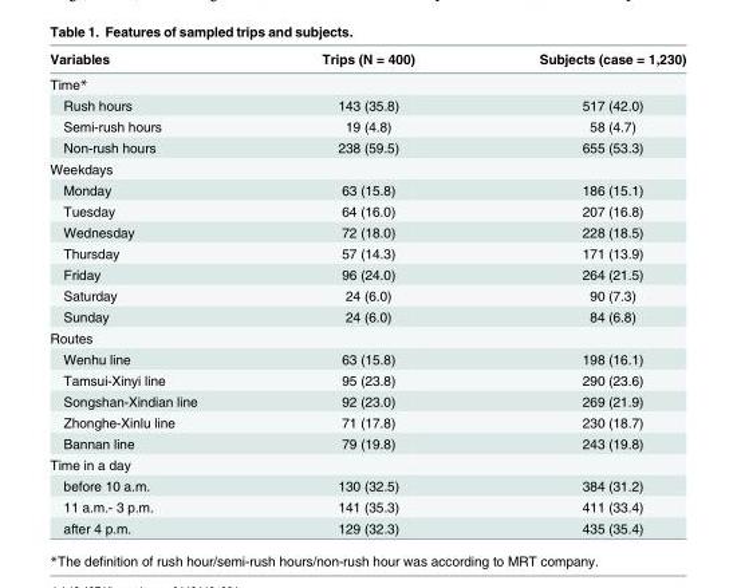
<table><thead><tr><td>Variables</td><td>Trips (N = 400)</td><td>Subjects (case = 1,230)</td></tr></thead><tbody><tr><td colspan="3">Time*</td></tr><tr><td>Rush hours</td><td>143 (35.8)</td><td>517 (42.0)</td></tr><tr><td>Semi-rush hours</td><td>19 (4.8)</td><td>58 (4.7)</td></tr><tr><td>Non-rush hours</td><td>238 (59.5)</td><td>655 (53.3)</td></tr><tr><td colspan="3">Weekdays</td></tr><tr><td>Monday</td><td>63 (15.8)</td><td>186 (15.1)</td></tr><tr><td>Tuesday</td><td>64 (16.0)</td><td>207 (16.8)</td></tr><tr><td>Wednesday</td><td>72 (18.0)</td><td>228 (18.5)</td></tr><tr><td>Thursday</td><td>57 (14.3)</td><td>171 (13.9)</td></tr><tr><td>Friday</td><td>96 (24.0)</td><td>264 (21.5)</td></tr><tr><td>Saturday</td><td>24 (6.0)</td><td>90 (7.3)</td></tr><tr><td>Sunday</td><td>24 (6.0)</td><td>84 (6.8)</td></tr><tr><td colspan="3">Routes</td></tr><tr><td>Wenhu line</td><td>63 (15.8)</td><td>198 (16.1)</td></tr><tr><td>Tamsui-Xinyi line</td><td>95 (23.8)</td><td>290 (23.6)</td></tr><tr><td>Songshan-Xindian line</td><td>92 (23.0)</td><td>269 (21.9)</td></tr><tr><td>Zhonghe-Xinlu line</td><td>71 (17.8)</td><td>230 (18.7)</td></tr><tr><td>Bannan line</td><td>79 (19.8)</td><td>243 (19.8)</td></tr><tr><td colspan="3">Time in a day</td></tr><tr><td>before 10 a.m.</td><td>130 (32.5)</td><td>384 (31.2)</td></tr><tr><td>11 a.m.- 3 p.m.</td><td>141 (35.3)</td><td>411 (33.4)</td></tr><tr><td>after 4 p.m.</td><td>129 (32.3)</td><td>435 (35.4)</td></tr></tbody></table>